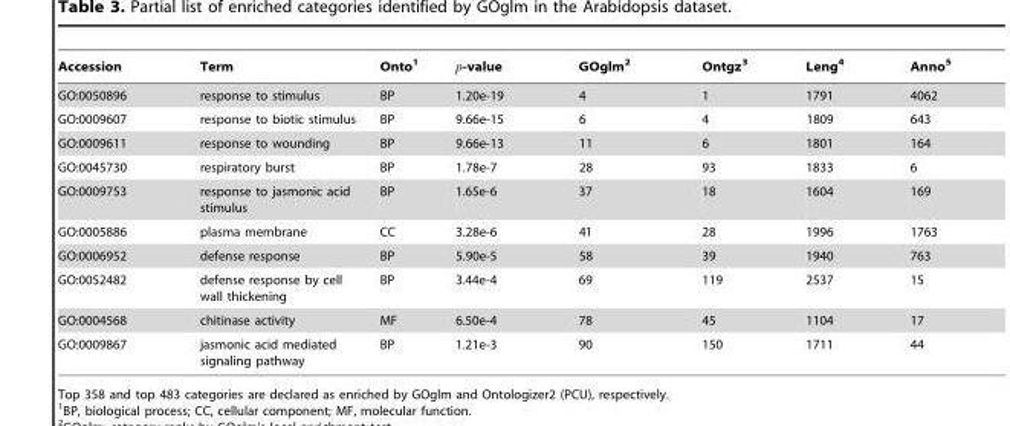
<table><thead><tr><td>Accession</td><td>Term</td><td>Onto<sup>1</sup></td><td>p-value</td><td>GOglm<sup>2</sup></td><td>Ontgz<sup>3</sup></td><td>Leng<sup>4</sup></td><td>Anno<sup>5</sup></td></tr></thead><tbody><tr><td>GO:0050896</td><td>response to stimulus</td><td>BP</td><td>1.20e-19</td><td>4</td><td>1</td><td>1791</td><td>4062</td></tr><tr><td>GO:0009607</td><td>response to biotic stimulus</td><td>BP</td><td>9.66e-15</td><td>6</td><td>4</td><td>1809</td><td>643</td></tr><tr><td>GO:0009611</td><td>response to wounding</td><td>BP</td><td>9.66e-13</td><td>11</td><td>6</td><td>1801</td><td>164</td></tr><tr><td>GO:0045730</td><td>respiratory burst</td><td>BP</td><td>1.78e-7</td><td>28</td><td>93</td><td>1833</td><td>6</td></tr><tr><td>GO:0009753</td><td>response to jasmonic acid stimulus</td><td>BP</td><td>1.65e-6</td><td>37</td><td>18</td><td>1604</td><td>169</td></tr><tr><td>GO:0005886</td><td>plasma membrane</td><td>CC</td><td>3.28e-6</td><td>41</td><td>28</td><td>1996</td><td>1763</td></tr><tr><td>GO:0006952</td><td>defense response</td><td>BP</td><td>5.90e-5</td><td>58</td><td>39</td><td>1940</td><td>763</td></tr><tr><td>GO:0052482</td><td>defense response by cell wall thickening</td><td>BP</td><td>3.44e-4</td><td>69</td><td>119</td><td>2537</td><td>15</td></tr><tr><td>GO:0004568</td><td>chitinase activity</td><td>MF</td><td>6.50e-4</td><td>78</td><td>45</td><td>1104</td><td>17</td></tr><tr><td>GO:0009867</td><td>jasmonic acid mediated signaling pathway</td><td>BP</td><td>1.21e-3</td><td>90</td><td>150</td><td>1711</td><td>44</td></tr></tbody></table>